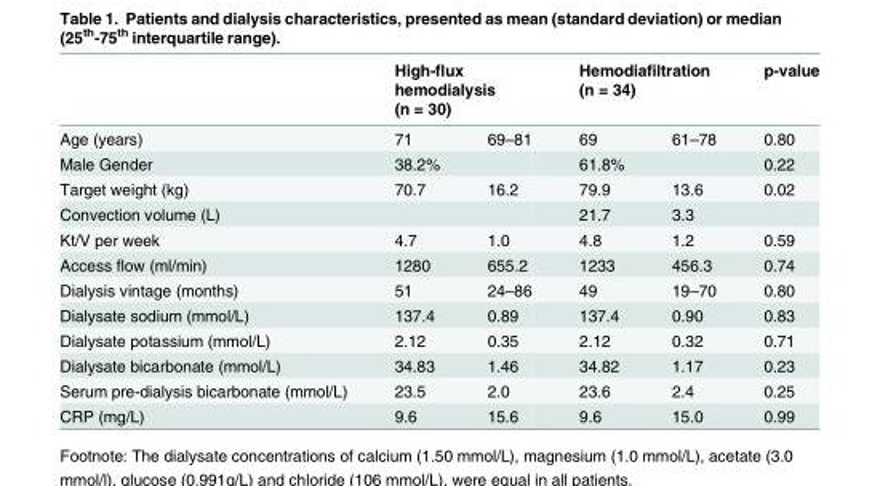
<table><thead><tr><td rowspan="2">Age (years)</td><td colspan="2">High-flux hemodialysis (n = 30)</td><td colspan="2">Hemodiafiltration (n = 34)</td><td rowspan="2">p-value 0.80</td></tr><tr><td>71</td><td>69–81</td><td>69</td><td>61–78</td></tr></thead><tbody><tr><td>Male Gender</td><td>38.2%</td><td></td><td>61.8%</td><td></td><td>0.22</td></tr><tr><td>Target weight (kg)</td><td>70.7</td><td>16.2</td><td>79.9</td><td>13.6</td><td>0.02</td></tr><tr><td>Convection volume (L)</td><td></td><td></td><td>21.7</td><td>3.3</td><td></td></tr><tr><td>Kt/V per week</td><td>4.7</td><td>1.0</td><td>4.8</td><td>1.2</td><td>0.59</td></tr><tr><td>Access flow (ml/min)</td><td>1280</td><td>655.2</td><td>1233</td><td>456.3</td><td>0.74</td></tr><tr><td>Dialysis vintage (months)</td><td>51</td><td>24–86</td><td>49</td><td>19–70</td><td>0.80</td></tr><tr><td>Dialysate sodium (mmol/L)</td><td>137.4</td><td>0.89</td><td>137.4</td><td>0.90</td><td>0.83</td></tr><tr><td>Dialysate potassium (mmol/L)</td><td>2.12</td><td>0.35</td><td>2.12</td><td>0.32</td><td>0.71</td></tr><tr><td>Dialysate bicarbonate (mmol/L)</td><td>34.83</td><td>1.46</td><td>34.82</td><td>1.17</td><td>0.23</td></tr><tr><td>Serum pre-dialysis bicarbonate (mmol/L)</td><td>23.5</td><td>2.0</td><td>23.6</td><td>2.4</td><td>0.25</td></tr><tr><td>CRP (mg/L)</td><td>9.6</td><td>15.6</td><td>9.6</td><td>15.0</td><td>0.99</td></tr></tbody></table>